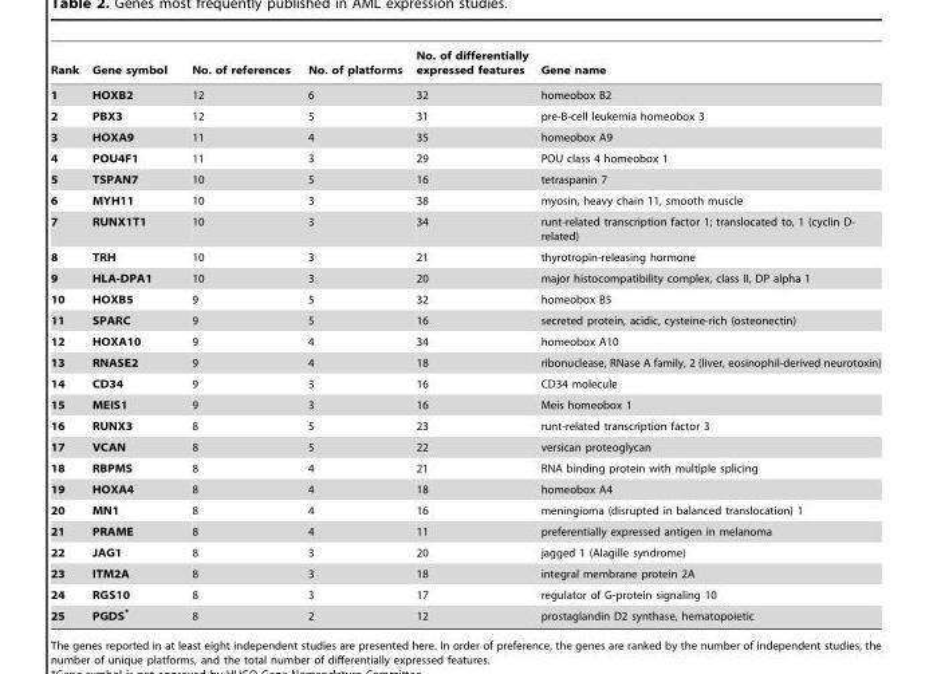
<table><thead><tr><td>Rank</td><td>Gene symbol</td><td>No. of references</td><td>No. of platforms</td><td>No. of differentially expressed features</td><td>Gene name</td></tr></thead><tbody><tr><td>1</td><td>HOXB2</td><td>12</td><td>6</td><td>32</td><td>homeobox B2</td></tr><tr><td>2</td><td>PBX3</td><td>12</td><td>5</td><td>31</td><td>pre-B-cell leukemia homeobox 3</td></tr><tr><td>3</td><td>HOXA9</td><td>11</td><td>4</td><td>35</td><td>homeobox A9</td></tr><tr><td>4</td><td>POU4F1</td><td>11</td><td>3</td><td>29</td><td>POU class 4 homeobox 1</td></tr><tr><td>5</td><td>TSPAN7</td><td>10</td><td>5</td><td>16</td><td>tetraspanin 7</td></tr><tr><td>6</td><td>MYH11</td><td>10</td><td>3</td><td>38</td><td>myosin, heavy chain 11, smooth muscle</td></tr><tr><td>7</td><td>RUNX1T1</td><td>10</td><td>3</td><td>34</td><td>runt-related transcription factor 1; translocated to, 1 (cyclin D- related)</td></tr><tr><td>8</td><td>TRH</td><td>10</td><td>3</td><td>21</td><td>thyrotropin-releasing hormone</td></tr><tr><td>9</td><td>HLA-DPA1</td><td>10</td><td>3</td><td>20</td><td>major histocompatibility complex, class II, DP alpha 1</td></tr><tr><td>10</td><td>HOXB5</td><td>9</td><td>5</td><td>32</td><td>homeobox B5</td></tr><tr><td>11</td><td>SPARC</td><td>9</td><td>5</td><td>16</td><td>secreted protein, acidic, cysteine-rich (osteonectin)</td></tr><tr><td>12</td><td>HOXA10</td><td>9</td><td>4</td><td>34</td><td>homeobox A10</td></tr><tr><td>13</td><td>RNASE2</td><td>9</td><td>4</td><td>18</td><td>ribonuclease, RNase A family, 2 (liver, eosinophil-derived neurotoxin)</td></tr><tr><td>14</td><td>CD34</td><td>9</td><td>3</td><td>16</td><td>CD34 molecule</td></tr><tr><td>15</td><td>MEIS1</td><td>9</td><td>3</td><td>16</td><td>Meis homeobox 1</td></tr><tr><td>16</td><td>RUNX3</td><td>8</td><td>5</td><td>23</td><td>runt-related transcription factor 3</td></tr><tr><td>17</td><td>VCAN</td><td>8</td><td>5</td><td>22</td><td>versican proteoglycan</td></tr><tr><td>18</td><td>RBPMS</td><td>8</td><td>4</td><td>21</td><td>RNA binding protein with multiple splicing</td></tr><tr><td>19</td><td>HOXA4</td><td>8</td><td>4</td><td>18</td><td>homeobox A4</td></tr><tr><td>20</td><td>MN1</td><td>8</td><td>4</td><td>16</td><td>meningioma (disrupted in balanced translocation) 1</td></tr><tr><td>21</td><td>PRAME</td><td>8</td><td>4</td><td>11</td><td>preferentially expressed antigen in melanoma</td></tr><tr><td>22</td><td>JAG1</td><td>8</td><td>3</td><td>20</td><td>jagged 1 (Alagille syndrome)</td></tr><tr><td>23</td><td>ITM2A</td><td>8</td><td>3</td><td>18</td><td>integral membrane protein 2A</td></tr><tr><td>24</td><td>RGS10</td><td>8</td><td>3</td><td>17</td><td>regulator of G-protein signaling 10</td></tr><tr><td>25</td><td>PGDS*</td><td>8</td><td>2</td><td>12</td><td>prostaglandin D2 synthase, hematopoietic</td></tr></tbody></table>